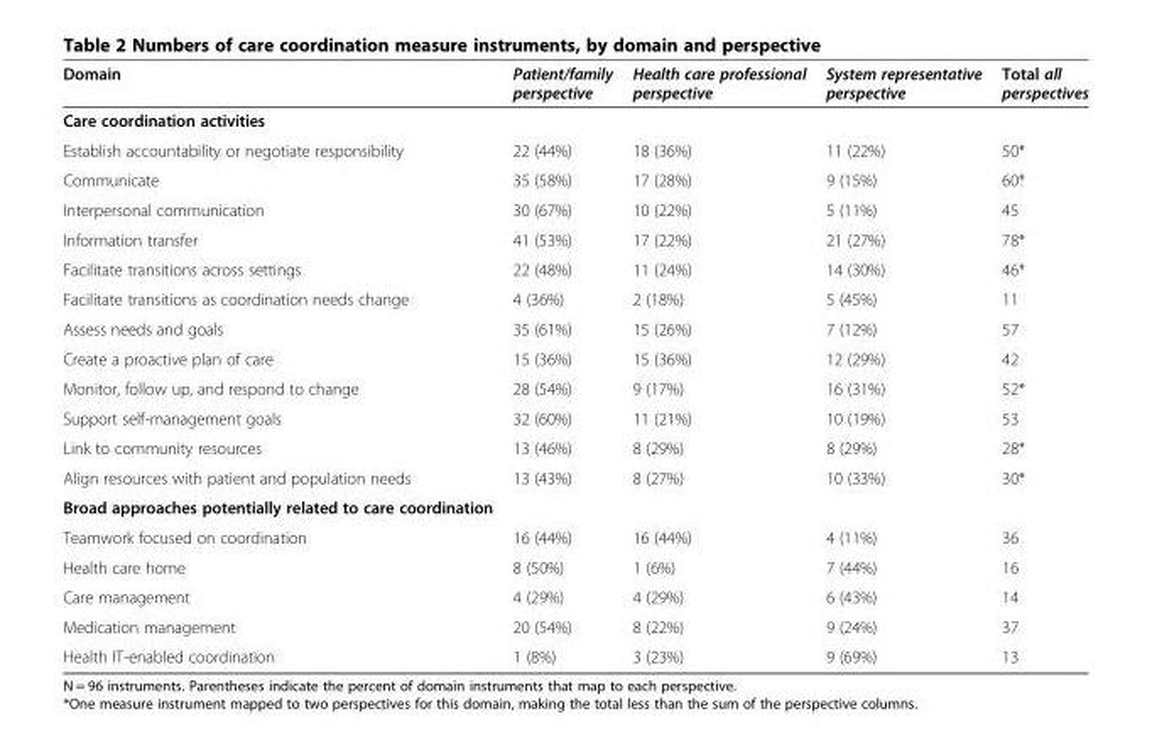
<table><thead><tr><td>Domain</td><td>Patient/family perspective</td><td>Health care professional perspective</td><td>System representative perspective</td><td>Total all perspectives</td></tr></thead><tbody><tr><td colspan="5">Care coordination activities</td></tr><tr><td>Establish accountability or negotiate responsibility</td><td>22 (44%)</td><td>18 (36%)</td><td>11 (22%)</td><td>50*</td></tr><tr><td>Communicate</td><td>35 (58%)</td><td>17 (28%)</td><td>9 (15%)</td><td>60*</td></tr><tr><td>Interpersonal communication</td><td>30 (67%)</td><td>10 (22%)</td><td>5 (11%)</td><td>45</td></tr><tr><td>Information transfer</td><td>41 (53%)</td><td>17 (22%)</td><td>21 (27%)</td><td>78*</td></tr><tr><td>Facilitate transitions across settings</td><td>22 (48%)</td><td>11 (24%)</td><td>14 (30%)</td><td>46*</td></tr><tr><td>Facilitate transitions as coordination needs change</td><td>4 (36%)</td><td>2 (18%)</td><td>5 (45%)</td><td>11</td></tr><tr><td>Assess needs and goals</td><td>35 (61%)</td><td>15 (26%)</td><td>7 (12%)</td><td>57</td></tr><tr><td>Create a proactive plan of care</td><td>15 (36%)</td><td>15 (36%)</td><td>12 (29%)</td><td>42</td></tr><tr><td>Monitor, follow up, and respond to change</td><td>28 (54%)</td><td>9 (17%)</td><td>16 (31%)</td><td>52*</td></tr><tr><td>Support self-management goals</td><td>32 (60%)</td><td>11 (21%)</td><td>10 (19%)</td><td>53</td></tr><tr><td>Link to community resources</td><td>13 (46%)</td><td>8 (29%)</td><td>8 (29%)</td><td>28*</td></tr><tr><td>Align resources with patient and population needs</td><td>13 (43%)</td><td>8 (27%)</td><td>10 (33%)</td><td>30*</td></tr><tr><td colspan="5">Broad approaches potentially related to care coordination</td></tr><tr><td>Teamwork focused on coordination</td><td>16 (44%)</td><td>16 (44%)</td><td>4 (11%)</td><td>36</td></tr><tr><td>Health care home</td><td>8 (50%)</td><td>1 (6%)</td><td>7 (44%)</td><td>16</td></tr><tr><td>Care management</td><td>4 (29%)</td><td>4 (29%)</td><td>6 (43%)</td><td>14</td></tr><tr><td>Medication management</td><td>20 (54%)</td><td>8 (22%)</td><td>9 (24%)</td><td>37</td></tr><tr><td>Health IT-enabled coordination</td><td>1 (8%)</td><td>3 (23%)</td><td>9 (69%)</td><td>13</td></tr></tbody></table>